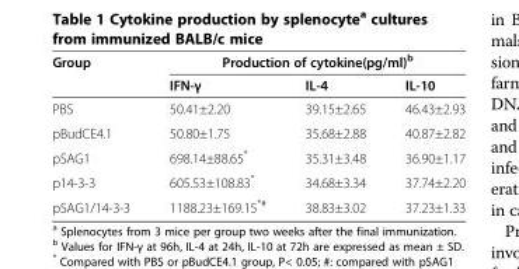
<table><thead><tr><td rowspan="2">Group</td><td colspan="3">Production of cytokine(pg/ml)<sup>b</sup></td></tr><tr><td>IFN-γ</td><td>IL-4</td><td>IL-10</td></tr></thead><tbody><tr><td>PBS</td><td>50.41±2.20</td><td>39.15±2.65</td><td>46.43±2.93</td></tr><tr><td>pBudCE4.1</td><td>50.80±1.75</td><td>35.68±2.88</td><td>40.87±2.82</td></tr><tr><td>pSAG1</td><td>698.14±88.65*</td><td>35.31±3.48</td><td>36.90±1.17</td></tr><tr><td>p14-3-3</td><td>605.53±108.83*</td><td>34.68±3.34</td><td>37.74±2.20</td></tr><tr><td>pSAG1/14-3-3</td><td>1188.23±169.15<sup>*#</sup></td><td>38.83±3.02</td><td>37.23±1.33</td></tr></tbody></table>